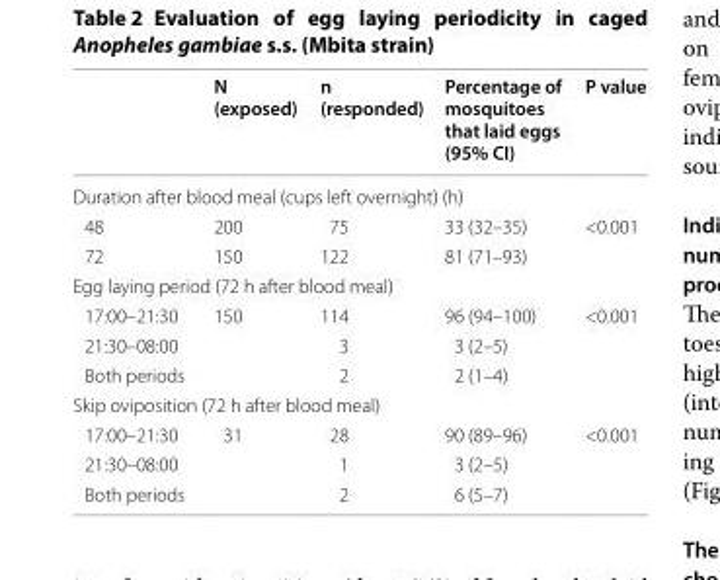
<table><thead><tr><td></td><td>N (exposed)</td><td>n (responded)</td><td>Percentage of mosquitoes that laid eggs (95% CI)</td><td>P value</td></tr></thead><tbody><tr><td colspan="5">Duration after blood meal (cups left overnight) (h)</td></tr><tr><td>48</td><td>200</td><td>75</td><td>33 (32–35)</td><td rowspan="2">&lt;0.001</td></tr><tr><td>72</td><td>150</td><td>122</td><td>81 (71–93)</td></tr><tr><td colspan="5">Egg laying period (72 h after blood meal)</td></tr><tr><td>17:00–21:30</td><td rowspan="3">150</td><td>114</td><td>96 (94–100)</td><td rowspan="3">&lt;0.001</td></tr><tr><td>21:30–08:00</td><td>3</td><td>3 (2–5)</td></tr><tr><td>Both periods</td><td>2</td><td>2 (1–4)</td></tr><tr><td colspan="5">Skip oviposition (72 h after blood meal)</td></tr><tr><td>17:00–21:30</td><td rowspan="3">31</td><td>28</td><td>90 (89–96)</td><td rowspan="3">&lt;0.001</td></tr><tr><td>21:30–08:00</td><td>1</td><td>3 (2–5)</td></tr><tr><td>Both periods</td><td>2</td><td>6 (5–7)</td></tr></tbody></table>